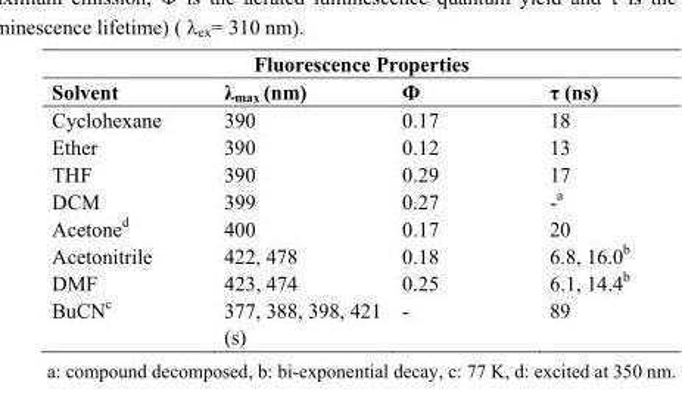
<table><thead><tr><td colspan="4">Fluorescence Properties</td></tr><tr><td>Solvent</td><td>λ<sub>max</sub> (nm)</td><td>Ф</td><td>τ (ns)</td></tr></thead><tbody><tr><td>Cyclohexane</td><td>390</td><td>0.17</td><td>18</td></tr><tr><td>Ether</td><td>390</td><td>0.12</td><td>13</td></tr><tr><td>THF</td><td>390</td><td>0.29</td><td>17</td></tr><tr><td>DCM</td><td>399</td><td>0.27</td><td>-a</td></tr><tr><td>Acetone<sup>d</sup></td><td>400</td><td>0.17</td><td>20</td></tr><tr><td>Acetonitrile</td><td>422, 478</td><td>0.18</td><td>6.8, 16.0<sup>b</sup></td></tr><tr><td>DMF</td><td>423, 474</td><td>0.25</td><td>6.1, 14.4<sup>b</sup></td></tr><tr><td>BuCN<sup>c</sup></td><td>377, 388, 398, 421 (s)</td><td>-</td><td>89</td></tr></tbody></table>